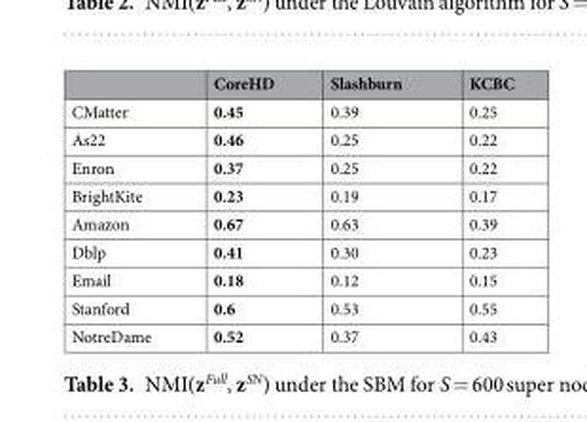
<table><thead><tr><td></td><td>CoreHD</td><td>Slashburn</td><td>KCBC</td></tr></thead><tbody><tr><td>CMatter</td><td>0.45</td><td>0.39</td><td>0.25</td></tr><tr><td>As22</td><td>0.46</td><td>0.25</td><td>0.22</td></tr><tr><td>Enron</td><td>0.37</td><td>0.25</td><td>0.22</td></tr><tr><td>BrightKite</td><td>0.23</td><td>0.19</td><td>0.17</td></tr><tr><td>Amazon</td><td>0.67</td><td>0.63</td><td>0.39</td></tr><tr><td>Dblp</td><td>0.41</td><td>0.30</td><td>0.23</td></tr><tr><td>Email</td><td>0.18</td><td>0.12</td><td>0.15</td></tr><tr><td>Stanford</td><td>0.6</td><td>0.53</td><td>0.55</td></tr><tr><td>NotreDame</td><td>0.52</td><td>0.37</td><td>0.43</td></tr></tbody></table>